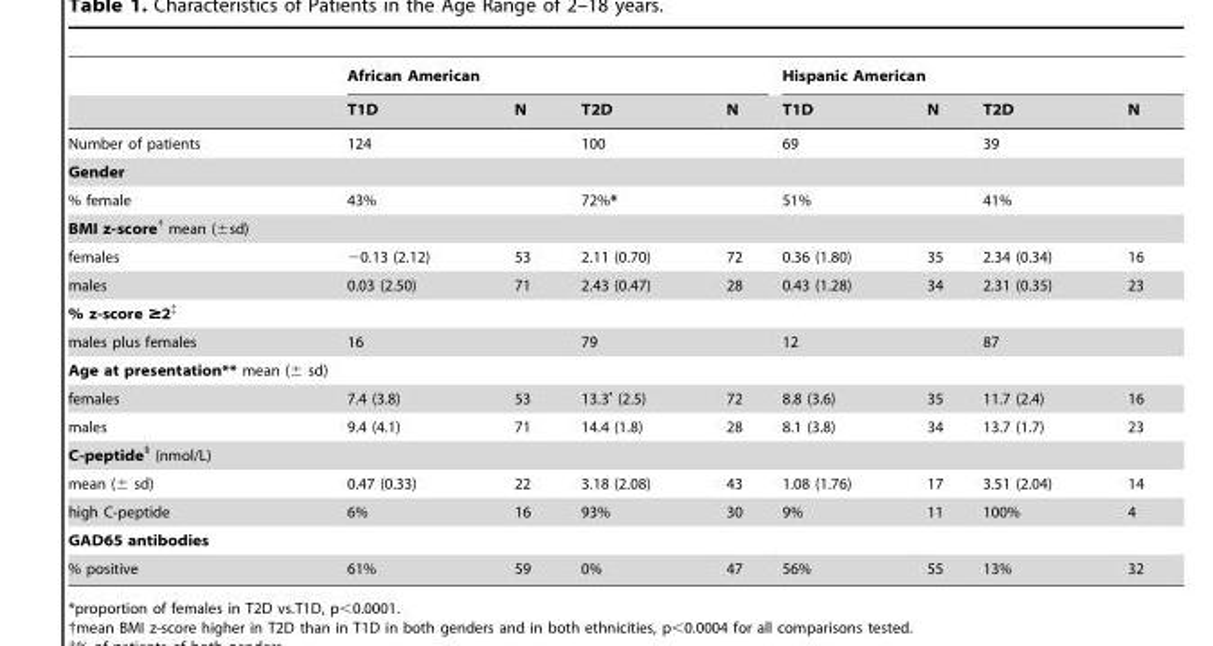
<table><thead><tr><td rowspan="2"></td><td colspan="4">African American</td><td colspan="4">Hispanic American</td></tr><tr><td>T1D</td><td>N</td><td>T2D</td><td>N</td><td>T1D</td><td>N</td><td>T2D</td><td>N</td></tr></thead><tbody><tr><td>Number of patients</td><td colspan="2">124</td><td colspan="2">100</td><td colspan="2">69</td><td colspan="2">39</td></tr><tr><td colspan="9">Gender</td></tr><tr><td>% female</td><td colspan="2">43%</td><td colspan="2">72%*</td><td colspan="2">51%</td><td colspan="2">41%</td></tr><tr><td colspan="9">BMI z-score† mean (±sd)</td></tr><tr><td>females</td><td>−0.13 (2.12)</td><td>53</td><td>2.11 (0.70)</td><td>72</td><td>0.36 (1.80)</td><td>35</td><td>2.34 (0.34)</td><td>16</td></tr><tr><td>males</td><td>0.03 (2.50)</td><td>71</td><td>2.43 (0.47)</td><td>28</td><td>0.43 (1.28)</td><td>34</td><td>2.31 (0.35)</td><td>23</td></tr><tr><td colspan="9">% z-score ≥2‡</td></tr><tr><td>males plus females</td><td colspan="2">16</td><td colspan="2">79</td><td colspan="2">12</td><td colspan="2">87</td></tr><tr><td colspan="9">Age at presentation** mean (± sd)</td></tr><tr><td>females</td><td>7.4 (3.8)</td><td>53</td><td>13.3• (2.5)</td><td>72</td><td>8.8 (3.6)</td><td>35</td><td>11.7 (2.4)</td><td>16</td></tr><tr><td>males</td><td>9.4 (4.1)</td><td>71</td><td>14.4 (1.8)</td><td>28</td><td>8.1 (3.8)</td><td>34</td><td>13.7 (1.7)</td><td>23</td></tr><tr><td colspan="9">C-peptide§ (nmol/L)</td></tr><tr><td>mean (± sd)</td><td>0.47 (0.33)</td><td>22</td><td>3.18 (2.08)</td><td>43</td><td>1.08 (1.76)</td><td>17</td><td>3.51 (2.04)</td><td>14</td></tr><tr><td>high C-peptide</td><td>6%</td><td>16</td><td>93%</td><td>30</td><td>9%</td><td>11</td><td>100%</td><td>4</td></tr><tr><td colspan="9">GAD65 antibodies</td></tr><tr><td>% positive</td><td>61%</td><td>59</td><td>0%</td><td>47</td><td>56%</td><td>55</td><td>13%</td><td>32</td></tr></tbody></table>